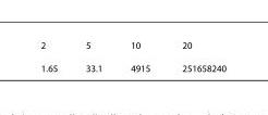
<table><tbody><tr><td>2 1.65</td><td>5 33.1</td><td>10 4915</td><td>20 251658240</td></tr></tbody></table>